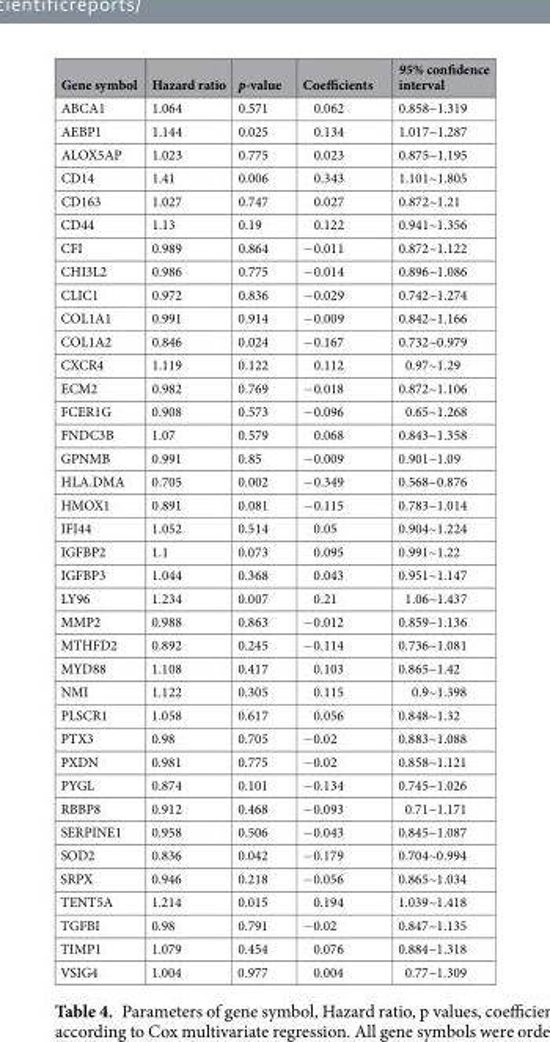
<table><thead><tr><td>Gene symbol</td><td>Hazard ratio</td><td>p-value</td><td>Coefficients</td><td>95% confidence interval</td></tr></thead><tbody><tr><td>ABCA1</td><td>1.064</td><td>0.571</td><td>0.062</td><td>0.858~1.319</td></tr><tr><td>AEBP1</td><td>1.144</td><td>0.025</td><td>0.134</td><td>1.017~1.287</td></tr><tr><td>ALOX5AP</td><td>1.023</td><td>0.775</td><td>0.023</td><td>0.875~1.195</td></tr><tr><td>CD14</td><td>1.41</td><td>0.006</td><td>0.343</td><td>1.101~1.805</td></tr><tr><td>CD163</td><td>1.027</td><td>0.747</td><td>0.027</td><td>0.872~1.21</td></tr><tr><td>CD44</td><td>1.13</td><td>0.19</td><td>0.122</td><td>0.941~1.356</td></tr><tr><td>CFI</td><td>0.989</td><td>0.864</td><td>−0.011</td><td>0.872~1.122</td></tr><tr><td>CHI3L2</td><td>0.986</td><td>0.775</td><td>−0.014</td><td>0.896~1.086</td></tr><tr><td>CLIC1</td><td>0.972</td><td>0.836</td><td>−0.029</td><td>0.742~1.274</td></tr><tr><td>COL1A1</td><td>0.991</td><td>0.914</td><td>−0.009</td><td>0.842~1.166</td></tr><tr><td>COL1A2</td><td>0.846</td><td>0.024</td><td>−0.167</td><td>0.732~0.979</td></tr><tr><td>CXCR4</td><td>1.119</td><td>0.122</td><td>0.112</td><td>0.97~1.29</td></tr><tr><td>ECM2</td><td>0.982</td><td>0.769</td><td>−0.018</td><td>0.872~1.106</td></tr><tr><td>FCER1G</td><td>0.908</td><td>0.573</td><td>−0.096</td><td>0.65~1.268</td></tr><tr><td>FNDC3B</td><td>1.07</td><td>0.579</td><td>0.068</td><td>0.843~1.358</td></tr><tr><td>GPNMB</td><td>0.991</td><td>0.85</td><td>−0.009</td><td>0.901~1.09</td></tr><tr><td>HLA.DMA</td><td>0.705</td><td>0.002</td><td>−0.349</td><td>0.568~0.876</td></tr><tr><td>HMOX1</td><td>0.891</td><td>0.081</td><td>−0.115</td><td>0.783~1.014</td></tr><tr><td>IFI44</td><td>1.052</td><td>0.514</td><td>0.05</td><td>0.904~1.224</td></tr><tr><td>IGFBP2</td><td>1.1</td><td>0.073</td><td>0.095</td><td>0.991~1.22</td></tr><tr><td>IGFBP3</td><td>1.044</td><td>0.368</td><td>0.043</td><td>0.951~1.147</td></tr><tr><td>LY96</td><td>1.234</td><td>0.007</td><td>0.21</td><td>1.06~1.437</td></tr><tr><td>MMP2</td><td>0.988</td><td>0.863</td><td>−0.012</td><td>0.859~1.136</td></tr><tr><td>MTHFD2</td><td>0.892</td><td>0.245</td><td>−0.114</td><td>0.736~1.081</td></tr><tr><td>MYD88</td><td>1.108</td><td>0.417</td><td>0.103</td><td>0.865~1.42</td></tr><tr><td>NMI</td><td>1.122</td><td>0.305</td><td>0.115</td><td>0.9~1.398</td></tr><tr><td>PLSCR1</td><td>1.058</td><td>0.617</td><td>0.056</td><td>0.848~1.32</td></tr><tr><td>PTX3</td><td>0.98</td><td>0.705</td><td>−0.02</td><td>0.883~1.088</td></tr><tr><td>PXDN</td><td>0.981</td><td>0.775</td><td>−0.02</td><td>0.858~1.121</td></tr><tr><td>PYGL</td><td>0.874</td><td>0.101</td><td>−0.134</td><td>0.745~1.026</td></tr><tr><td>RBBP8</td><td>0.912</td><td>0.468</td><td>−0.093</td><td>0.71~1.171</td></tr><tr><td>SERPINE1</td><td>0.958</td><td>0.506</td><td>−0.043</td><td>0.845~1.087</td></tr><tr><td>SOD2</td><td>0.836</td><td>0.042</td><td>−0.179</td><td>0.704~0.994</td></tr><tr><td>SRPX</td><td>0.946</td><td>0.218</td><td>−0.056</td><td>0.865~1.034</td></tr><tr><td>TENT5A</td><td>1.214</td><td>0.015</td><td>0.194</td><td>1.039~1.418</td></tr><tr><td>TGFBI</td><td>0.98</td><td>0.791</td><td>−0.02</td><td>0.847~1.135</td></tr><tr><td>TIMP1</td><td>1.079</td><td>0.454</td><td>0.076</td><td>0.884~1.318</td></tr><tr><td>VSIG4</td><td>1.004</td><td>0.977</td><td>0.004</td><td>0.77~1.309</td></tr></tbody></table>